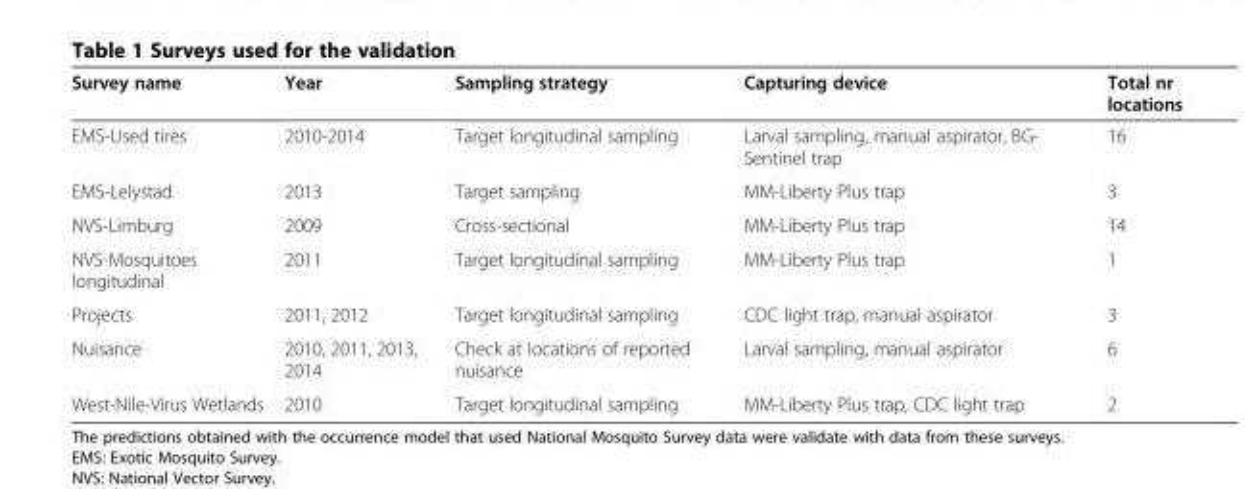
<table><thead><tr><td>Survey name</td><td>Year</td><td>Sampling strategy</td><td>Capturing device</td><td>Total nr locations</td></tr></thead><tbody><tr><td>EMS-Used tires</td><td>2010-2014</td><td>Target longitudinal sampling</td><td>Larval sampling, manual aspirator, BG- Sentinel trap</td><td>16</td></tr><tr><td>EMS-Lelystad</td><td>2013</td><td>Target sampling</td><td>MM-Liberty Plus trap</td><td>3</td></tr><tr><td>NVS-Limburg</td><td>2009</td><td>Cross-sectional</td><td>MM-Liberty Plus trap</td><td>14</td></tr><tr><td>NVS-Mosquitoes longitudinal</td><td>2011</td><td>Target longitudinal sampling</td><td>MM-Liberty Plus trap</td><td>1</td></tr><tr><td>Projects</td><td>2011, 2012</td><td>Target longitudinal sampling</td><td>CDC light trap, manual aspirator</td><td>3</td></tr><tr><td>Nuisance</td><td>2010, 2011, 2013, 2014</td><td>Check at locations of reported nuisance</td><td>Larval sampling, manual aspirator</td><td>6</td></tr><tr><td>West-Nile-Virus Wetlands</td><td>2010</td><td>Target longitudinal sampling</td><td>MM-Liberty Plus trap, CDC light trap</td><td>2</td></tr></tbody></table>